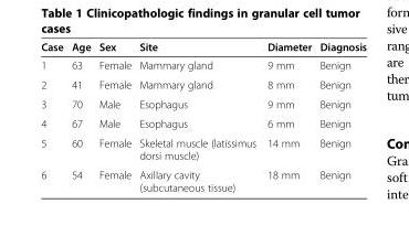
<table><thead><tr><td>Case</td><td>Age</td><td>Sex</td><td>Site</td><td>Diameter</td><td>Diagnosis</td></tr></thead><tbody><tr><td>1</td><td>63</td><td>Female</td><td>Mammary gland</td><td>9 mm</td><td>Benign</td></tr><tr><td>2</td><td>41</td><td>Female</td><td>Mammary gland</td><td>8 mm</td><td>Benign</td></tr><tr><td>3</td><td>70</td><td>Male</td><td>Esophagus</td><td>9 mm</td><td>Benign</td></tr><tr><td>4</td><td>67</td><td>Male</td><td>Esophagus</td><td>6 mm</td><td>Benign</td></tr><tr><td>5</td><td>60</td><td>Female</td><td>Skeletal muscle (latissimus dorsi muscle)</td><td>14 mm</td><td>Benign</td></tr><tr><td>6</td><td>54</td><td>Female</td><td>Axillary cavity (subcutaneous tissue)</td><td>18 mm</td><td>Benign</td></tr></tbody></table>